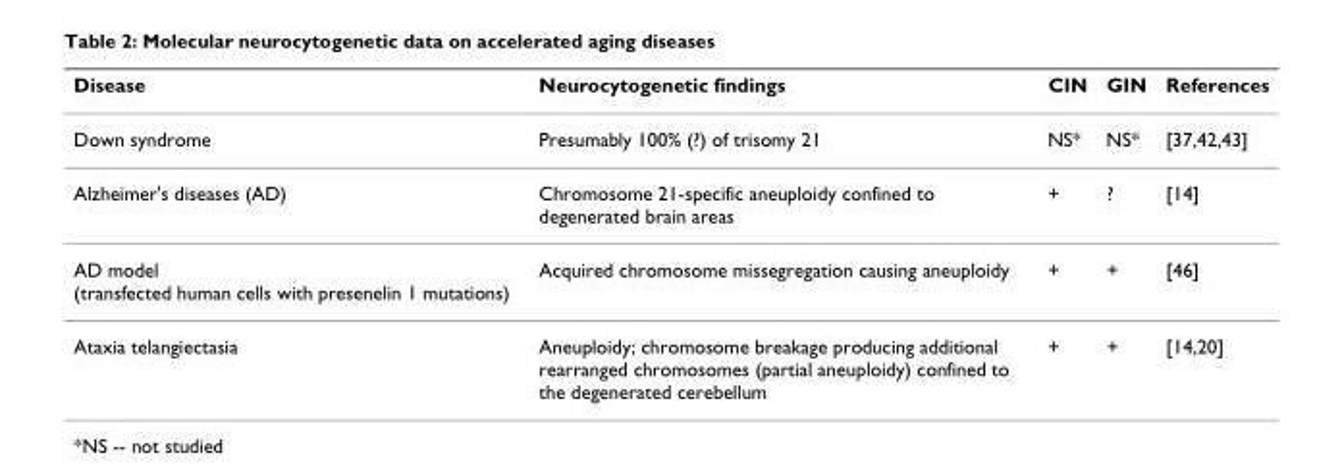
<table><thead><tr><td>Disease</td><td>Neurocytogenetic findings</td><td>CIN</td><td>GIN</td><td>References</td></tr></thead><tbody><tr><td>Down syndrome</td><td>Presumably 100% (?) of trisomy 21</td><td>NS*</td><td>NS*</td><td>[37,42,43]</td></tr><tr><td>Alzheimer&#x27;s diseases (AD)</td><td>Chromosome 21-specific aneuploidy confined to degenerated brain areas</td><td>+</td><td>?</td><td>[14]</td></tr><tr><td>AD model (transfected human cells with presenelin 1 mutations)</td><td>Acquired chromosome missegregation causing aneuploidy</td><td>+</td><td>+</td><td>[46]</td></tr><tr><td>Ataxia telangiectasia</td><td>Aneuploidy; chromosome breakage producing additional rearranged chromosomes (partial aneuploidy) confined to the degenerated cerebellum</td><td>+</td><td>+</td><td>[14,20]</td></tr></tbody></table>